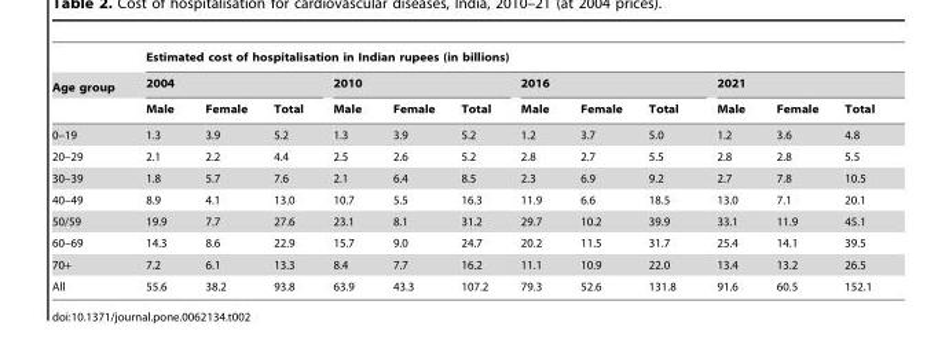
<table><thead><tr><td rowspan="3">Age group</td><td colspan="12">Estimated cost of hospitalisation in Indian rupees (in billions)</td></tr><tr><td colspan="3">2004</td><td colspan="3">2010</td><td colspan="3">2016</td><td colspan="3">2021</td></tr><tr><td>Male</td><td>Female</td><td>Total</td><td>Male</td><td>Female</td><td>Total</td><td>Male</td><td>Female</td><td>Total</td><td>Male</td><td>Female</td><td>Total</td></tr></thead><tbody><tr><td>0–19</td><td>1.3</td><td>3.9</td><td>5.2</td><td>1.3</td><td>3.9</td><td>5.2</td><td>1.2</td><td>3.7</td><td>5.0</td><td>1.2</td><td>3.6</td><td>4.8</td></tr><tr><td>20–29</td><td>2.1</td><td>2.2</td><td>4.4</td><td>2.5</td><td>2.6</td><td>5.2</td><td>2.8</td><td>2.7</td><td>5.5</td><td>2.8</td><td>2.8</td><td>5.5</td></tr><tr><td>30–39</td><td>1.8</td><td>5.7</td><td>7.6</td><td>2.1</td><td>6.4</td><td>8.5</td><td>2.3</td><td>6.9</td><td>9.2</td><td>2.7</td><td>7.8</td><td>10.5</td></tr><tr><td>40–49</td><td>8.9</td><td>4.1</td><td>13.0</td><td>10.7</td><td>5.5</td><td>16.3</td><td>11.9</td><td>6.6</td><td>18.5</td><td>13.0</td><td>7.1</td><td>20.1</td></tr><tr><td>50/59</td><td>19.9</td><td>7.7</td><td>27.6</td><td>23.1</td><td>8.1</td><td>31.2</td><td>29.7</td><td>10.2</td><td>39.9</td><td>33.1</td><td>11.9</td><td>45.1</td></tr><tr><td>60–69</td><td>14.3</td><td>8.6</td><td>22.9</td><td>15.7</td><td>9.0</td><td>24.7</td><td>20.2</td><td>11.5</td><td>31.7</td><td>25.4</td><td>14.1</td><td>39.5</td></tr><tr><td>70+</td><td>7.2</td><td>6.1</td><td>13.3</td><td>8.4</td><td>7.7</td><td>16.2</td><td>11.1</td><td>10.9</td><td>22.0</td><td>13.4</td><td>13.2</td><td>26.5</td></tr><tr><td>All</td><td>55.6</td><td>38.2</td><td>93.8</td><td>63.9</td><td>43.3</td><td>107.2</td><td>79.3</td><td>52.6</td><td>131.8</td><td>91.6</td><td>60.5</td><td>152.1</td></tr></tbody></table>